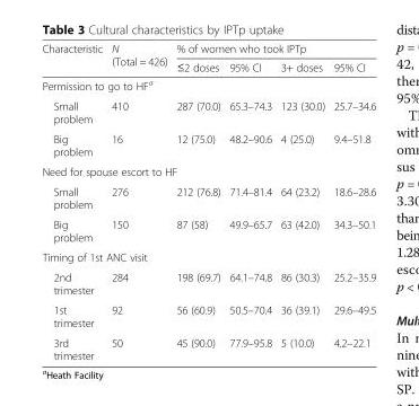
<table><thead><tr><td rowspan="2">Characteristic</td><td rowspan="2">N (Total = 426)</td><td colspan="4">% of women who took IPTp</td></tr><tr><td>≤2 doses</td><td>95% CI</td><td>3+ doses</td><td>95% CI</td></tr></thead><tbody><tr><td colspan="6">Permission to go to HF<sup>a</sup></td></tr><tr><td>Small problem</td><td>410</td><td>287 (70.0)</td><td>65.3–74.3</td><td>123 (30.0)</td><td>25.7–34.6</td></tr><tr><td>Big problem</td><td>16</td><td>12 (75.0)</td><td>48.2–90.6</td><td>4 (25.0)</td><td>9.4–51.8</td></tr><tr><td colspan="6">Need for spouse escort to HF</td></tr><tr><td>Small problem</td><td>276</td><td>212 (76.8)</td><td>71.4–81.4</td><td>64 (23.2)</td><td>18.6–28.6</td></tr><tr><td>Big problem</td><td>150</td><td>87 (58)</td><td>49.9–65.7</td><td>63 (42.0)</td><td>34.3–50.1</td></tr><tr><td colspan="6">Timing of 1st ANC visit</td></tr><tr><td>2nd trimester</td><td>284</td><td>198 (69.7)</td><td>64.1–74.8</td><td>86 (30.3)</td><td>25.2–35.9</td></tr><tr><td>1st trimester</td><td>92</td><td>56 (60.9)</td><td>50.5–70.4</td><td>36 (39.1)</td><td>29.6–49.5</td></tr><tr><td>3rd trimester</td><td>50</td><td>45 (90.0)</td><td>77.9–95.8</td><td>5 (10.0)</td><td>4.2–22.1</td></tr></tbody></table>